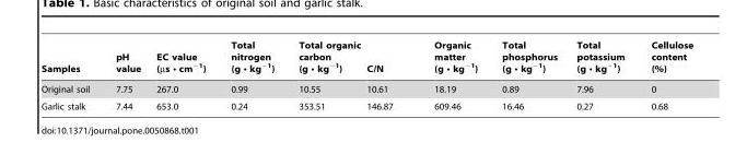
<table><thead><tr><td>Samples</td><td>pH value</td><td>EC value (µs • cm<sup>−1</sup>)</td><td>Total nitrogen (g • kg<sup>−1</sup>)</td><td>Total organic carbon (g • kg<sup>−1</sup>)</td><td>C/N</td><td>Organic matter (g • kg<sup>−1</sup>)</td><td>Total phosphorus (g • kg<sup>−1</sup>)</td><td>Total potassium (g • kg<sup>−1</sup>)</td><td>Cellulose content (%)</td></tr></thead><tbody><tr><td>Original soil</td><td>7.75</td><td>267.0</td><td>0.99</td><td>10.55</td><td>10.61</td><td>18.19</td><td>0.89</td><td>7.96</td><td>0</td></tr><tr><td>Garlic stalk</td><td>7.44</td><td>653.0</td><td>0.24</td><td>353.51</td><td>146.87</td><td>609.46</td><td>16.46</td><td>0.27</td><td>0.68</td></tr></tbody></table>